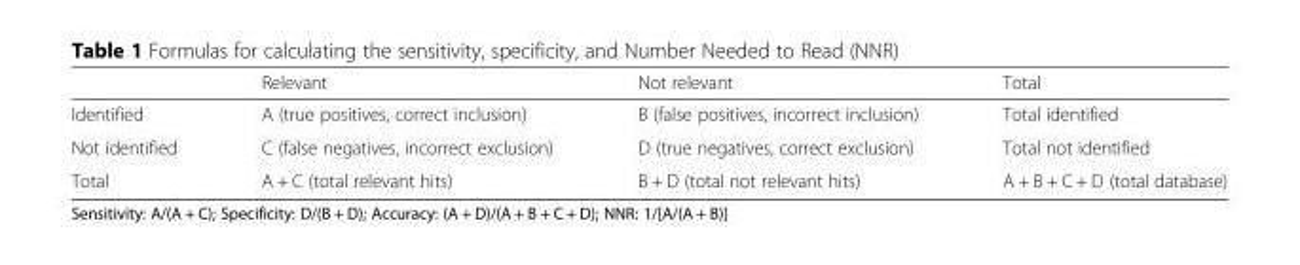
<table><thead><tr><td></td><td>Relevant</td><td>Not relevant</td><td>Total</td></tr></thead><tbody><tr><td>Identified</td><td>A (true positives, correct inclusion)</td><td>B (false positives, incorrect inclusion)</td><td>Total identified</td></tr><tr><td>Not identified</td><td>C (false negatives, incorrect exclusion)</td><td>D (true negatives, correct exclusion)</td><td>Total not identified</td></tr><tr><td>Total</td><td>A + C (total relevant hits)</td><td>B + D (total not relevant hits)</td><td>A + B + C + D (total database)</td></tr></tbody></table>